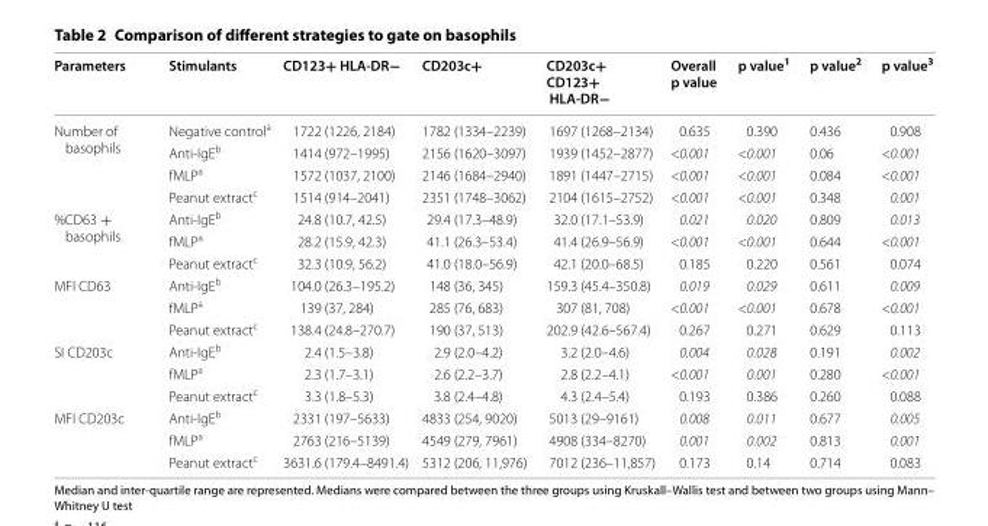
<table><thead><tr><td>Parameters</td><td>Stimulants</td><td>CD123+ HLA‑DR−</td><td>CD203c+</td><td>CD203c+ CD123+ HLA‑DR−</td><td>Overall p value</td><td>p value<sup>1</sup></td><td>p value<sup>2</sup></td><td>p value<sup>3</sup></td></tr></thead><tbody><tr><td rowspan="4">Number of basophils</td><td>Negative control<sup>a</sup></td><td>1722 (1226, 2184)</td><td>1782 (1334–2239)</td><td>1697 (1268–2134)</td><td>0.635</td><td>0.390</td><td>0.436</td><td>0.908</td></tr><tr><td>Anti-IgE<sup>b</sup></td><td>1414 (972–1995)</td><td>2156 (1620–3097)</td><td>1939 (1452–2877)</td><td>&lt;0.001</td><td>&lt;0.001</td><td>0.06</td><td>&lt;0.001</td></tr><tr><td>fMLP<sup>a</sup></td><td>1572 (1037, 2100)</td><td>2146 (1684–2940)</td><td>1891 (1447–2715)</td><td>&lt;0.001</td><td>&lt;0.001</td><td>0.084</td><td>&lt;0.001</td></tr><tr><td>Peanut extract<sup>c</sup></td><td>1514 (914–2041)</td><td>2351 (1748–3062)</td><td>2104 (1615–2752)</td><td>&lt;0.001</td><td>&lt;0.001</td><td>0.348</td><td>0.001</td></tr><tr><td rowspan="3">%CD63 + basophils</td><td>Anti-IgE<sup>b</sup></td><td>24.8 (10.7, 42.5)</td><td>29.4 (17.3–48.9)</td><td>32.0 (17.1–53.9)</td><td>0.021</td><td>0.020</td><td>0.809</td><td>0.013</td></tr><tr><td>fMLP<sup>a</sup></td><td>28.2 (15.9, 42.3)</td><td>41.1 (26.3–53.4)</td><td>41.4 (26.9–56.9)</td><td>&lt;0.001</td><td>&lt;0.001</td><td>0.644</td><td>&lt;0.001</td></tr><tr><td>Peanut extract<sup>c</sup></td><td>32.3 (10.9, 56.2)</td><td>41.0 (18.0–56.9)</td><td>42.1 (20.0–68.5)</td><td>0.185</td><td>0.220</td><td>0.561</td><td>0.074</td></tr><tr><td rowspan="3">MFI CD63</td><td>Anti-IgE<sup>b</sup></td><td>104.0 (26.3–195.2)</td><td>148 (36, 345)</td><td>159.3 (45.4–350.8)</td><td>0.019</td><td>0.029</td><td>0.611</td><td>0.009</td></tr><tr><td>fMLP<sup>a</sup></td><td>139 (37, 284)</td><td>285 (76, 683)</td><td>307 (81, 708)</td><td>&lt;0.001</td><td>&lt;0.001</td><td>0.678</td><td>&lt;0.001</td></tr><tr><td>Peanut extract<sup>c</sup></td><td>138.4 (24.8–270.7)</td><td>190 (37, 513)</td><td>202.9 (42.6–567.4)</td><td>0.267</td><td>0.271</td><td>0.629</td><td>0.113</td></tr><tr><td rowspan="3">SI CD203c</td><td>Anti-IgE<sup>b</sup></td><td>2.4 (1.5–3.8)</td><td>2.9 (2.0–4.2)</td><td>3.2 (2.0–4.6)</td><td>0.004</td><td>0.028</td><td>0.191</td><td>0.002</td></tr><tr><td>fMLP<sup>a</sup></td><td>2.3 (1.7–3.1)</td><td>2.6 (2.2–3.7)</td><td>2.8 (2.2–4.1)</td><td>&lt;0.001</td><td>0.001</td><td>0.280</td><td>&lt;0.001</td></tr><tr><td>Peanut extract<sup>c</sup></td><td>3.3 (1.8–5.3)</td><td>3.8 (2.4–4.8)</td><td>4.3 (2.4–5.4)</td><td>0.193</td><td>0.386</td><td>0.260</td><td>0.088</td></tr><tr><td rowspan="3">MFI CD203c</td><td>Anti-IgE<sup>b</sup></td><td>2331 (197–5633)</td><td>4833 (254, 9020)</td><td>5013 (29–9161)</td><td>0.008</td><td>0.011</td><td>0.677</td><td>0.005</td></tr><tr><td>fMLP<sup>a</sup></td><td>2763 (216–5139)</td><td>4549 (279, 7961)</td><td>4908 (334–8270)</td><td>0.001</td><td>0.002</td><td>0.813</td><td>0.001</td></tr><tr><td>Peanut extract<sup>c</sup></td><td>3631.6 (179.4–8491.4)</td><td>5312 (206, 11,976)</td><td>7012 (236–11,857)</td><td>0.173</td><td>0.14</td><td>0.714</td><td>0.083</td></tr></tbody></table>